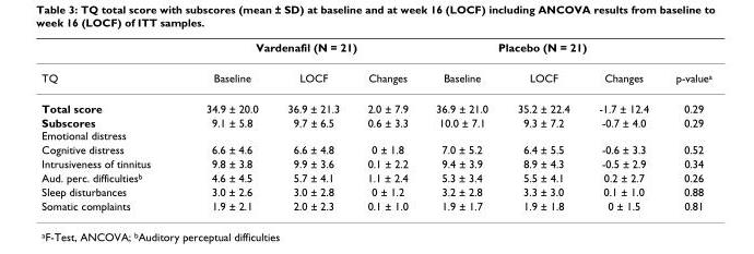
<table><thead><tr><td rowspan="2">TQ</td><td colspan="3">Vardenafil (N = 21)</td><td colspan="3">Placebo (N = 21)</td><td rowspan="2">p-value<sup>a</sup></td></tr><tr><td>Baseline</td><td>LOCF</td><td>Changes</td><td>Baseline</td><td>LOCF</td><td>Changes</td></tr></thead><tbody><tr><td>Total score</td><td>34.9 ± 20.0</td><td>36.9 ± 21.3</td><td>2.0 ± 7.9</td><td>36.9 ± 21.0</td><td>35.2 ± 22.4</td><td>-1.7 ± 12.4</td><td>0.29</td></tr><tr><td>Subscores Emotional distress</td><td>9.1 ± 5.8</td><td>9.7 ± 6.5</td><td>0.6 ± 3.3</td><td>10.0 ± 7.1</td><td>9.3 ± 7.2</td><td>-0.7 ± 4.0</td><td>0.29</td></tr><tr><td>Cognitive distress</td><td>6.6 ± 4.6</td><td>6.6 ± 4.8</td><td>0 ± 1.8</td><td>7.0 ± 5.2</td><td>6.4 ± 5.5</td><td>-0.6 ± 3.3</td><td>0.52</td></tr><tr><td>Intrusiveness of tinnitus</td><td>9.8 ± 3.8</td><td>9.9 ± 3.6</td><td>0.1 ± 2.2</td><td>9.4 ± 3.9</td><td>8.9 ± 4.3</td><td>-0.5 ± 2.9</td><td>0.34</td></tr><tr><td>Aud. perc. difficulties<sup>b</sup></td><td>4.6 ± 4.5</td><td>5.7 ± 4.1</td><td>1.1 ± 2.4</td><td>5.3 ± 3.4</td><td>5.5 ± 4.1</td><td>0.2 ± 2.7</td><td>0.26</td></tr><tr><td>Sleep disturbances</td><td>3.0 ± 2.6</td><td>3.0 ± 2.8</td><td>0 ± 1.2</td><td>3.2 ± 2.8</td><td>3.3 ± 3.0</td><td>0.1 ± 1.0</td><td>0.88</td></tr><tr><td>Somatic complaints</td><td>1.9 ± 2.1</td><td>2.0 ± 2.3</td><td>0.1 ± 1.0</td><td>1.9 ± 1.7</td><td>1.9 ± 1.8</td><td>0 ± 1.5</td><td>0.81</td></tr></tbody></table>